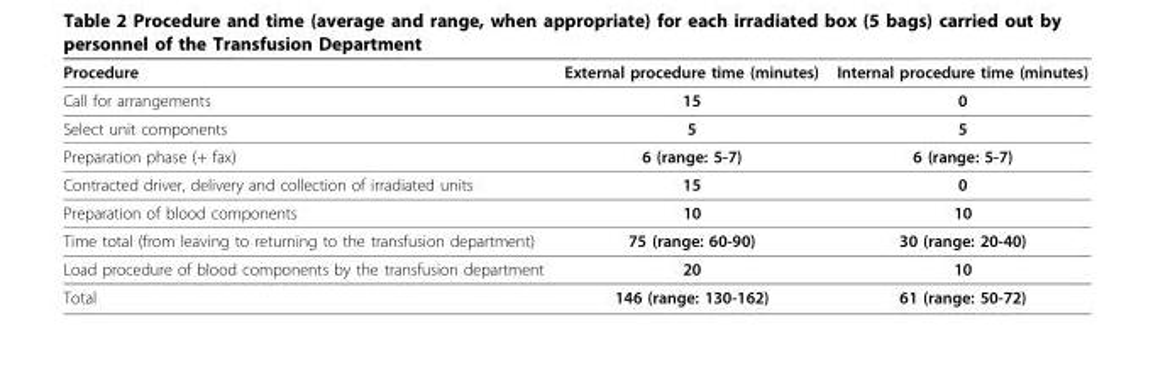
<table><thead><tr><td>Procedure</td><td>External procedure time (minutes)</td><td>Internal procedure time (minutes)</td></tr></thead><tbody><tr><td>Call for arrangements</td><td>15</td><td>0</td></tr><tr><td>Select unit components</td><td>5</td><td>5</td></tr><tr><td>Preparation phase (+ fax)</td><td>6 (range: 5-7)</td><td>6 (range: 5-7)</td></tr><tr><td>Contracted driver, delivery and collection of irradiated units</td><td>15</td><td>0</td></tr><tr><td>Preparation of blood components</td><td>10</td><td>10</td></tr><tr><td>Time total (from leaving to returning to the transfusion department)</td><td>75 (range: 60-90)</td><td>30 (range: 20-40)</td></tr><tr><td>Load procedure of blood components by the transfusion department</td><td>20</td><td>10</td></tr><tr><td>Total</td><td>146 (range: 130-162)</td><td>61 (range: 50-72)</td></tr></tbody></table>